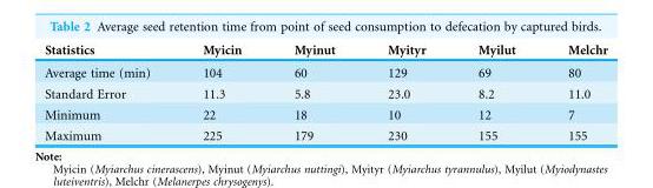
<table><thead><tr><td>Statistics</td><td>Myicin</td><td>Myinut</td><td>Myityr</td><td>Myilut</td><td>Melchr</td></tr></thead><tbody><tr><td>Average time (min)</td><td>104</td><td>60</td><td>129</td><td>69</td><td>80</td></tr><tr><td>Standard Error</td><td>11.3</td><td>5.8</td><td>23.0</td><td>8.2</td><td>11.0</td></tr><tr><td>Minimum</td><td>22</td><td>18</td><td>10</td><td>12</td><td>7</td></tr><tr><td>Maximum</td><td>225</td><td>179</td><td>230</td><td>155</td><td>155</td></tr></tbody></table>